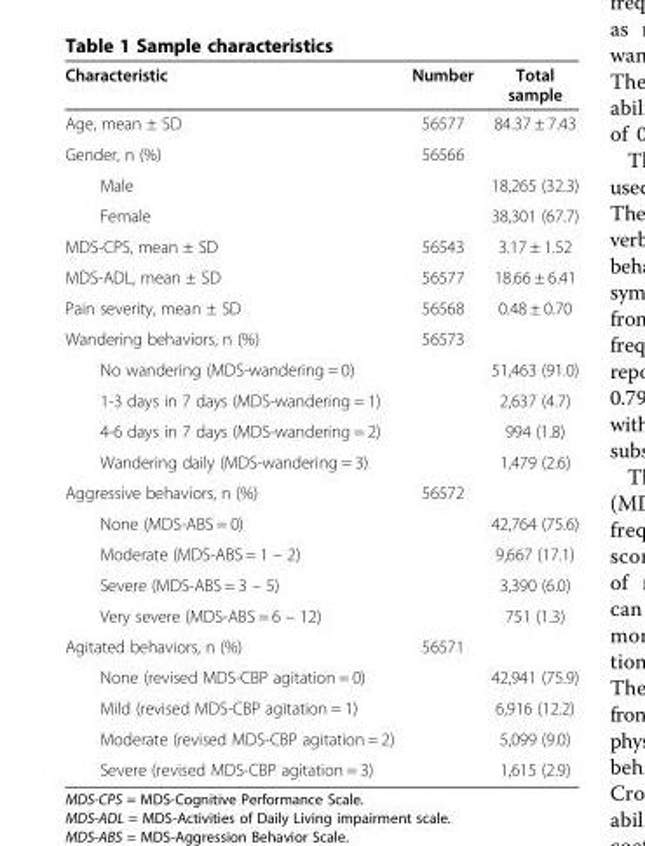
<table><thead><tr><td>Characteristic</td><td>Number</td><td>Total sample</td></tr></thead><tbody><tr><td>Age, mean ± SD</td><td>56577</td><td>84.37 ± 7.43</td></tr><tr><td>Gender, n (%)</td><td>56566</td><td></td></tr><tr><td>Male</td><td></td><td>18,265 (32.3)</td></tr><tr><td>Female</td><td></td><td>38,301 (67.7)</td></tr><tr><td>MDS-CPS, mean ± SD</td><td>56543</td><td>3.17 ± 1.52</td></tr><tr><td>MDS-ADL, mean ± SD</td><td>56577</td><td>18.66 ± 6.41</td></tr><tr><td>Pain severity, mean ± SD</td><td>56568</td><td>0.48 ± 0.70</td></tr><tr><td>Wandering behaviors, n (%)</td><td>56573</td><td></td></tr><tr><td>No wandering (MDS-wandering = 0)</td><td></td><td>51,463 (91.0)</td></tr><tr><td>1-3 days in 7 days (MDS-wandering = 1)</td><td></td><td>2,637 (4.7)</td></tr><tr><td>4-6 days in 7 days (MDS-wandering = 2)</td><td></td><td>994 (1.8)</td></tr><tr><td>Wandering daily (MDS-wandering = 3)</td><td></td><td>1,479 (2.6)</td></tr><tr><td>Aggressive behaviors, n (%)</td><td>56572</td><td></td></tr><tr><td>None (MDS-ABS = 0)</td><td></td><td>42,764 (75.6)</td></tr><tr><td>Moderate (MDS-ABS = 1 – 2)</td><td></td><td>9,667 (17.1)</td></tr><tr><td>Severe (MDS-ABS = 3 – 5)</td><td></td><td>3,390 (6.0)</td></tr><tr><td>Very severe (MDS-ABS = 6 – 12)</td><td></td><td>751 (1.3)</td></tr><tr><td>Agitated behaviors, n (%)</td><td>56571</td><td></td></tr><tr><td>None (revised MDS-CBP agitation = 0)</td><td></td><td>42,941 (75.9)</td></tr><tr><td>Mild (revised MDS-CBP agitation = 1)</td><td></td><td>6,916 (12.2)</td></tr><tr><td>Moderate (revised MDS-CBP agitation = 2)</td><td></td><td>5,099 (9.0)</td></tr><tr><td>Severe (revised MDS-CBP agitation = 3)</td><td></td><td>1,615 (2.9)</td></tr></tbody></table>